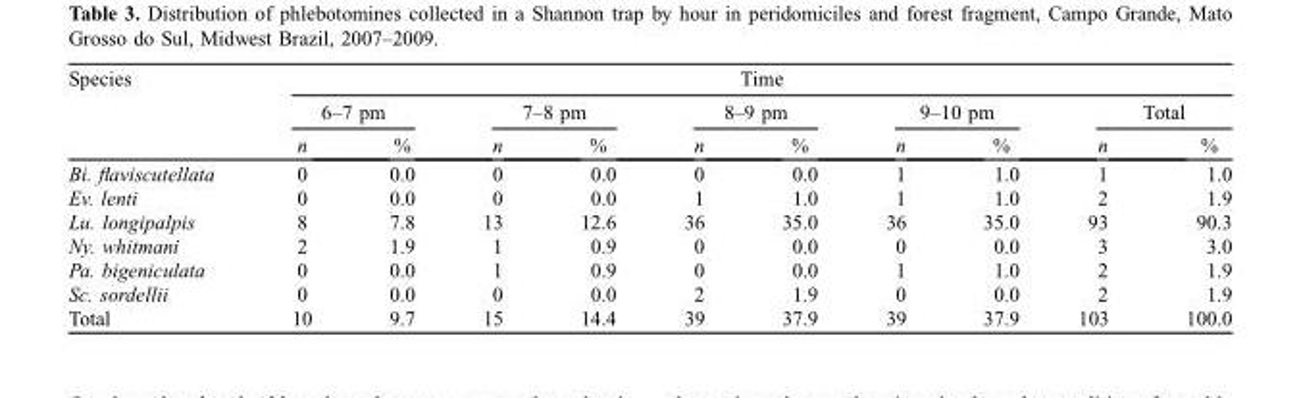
<table><thead><tr><td rowspan="3">Species</td><td colspan="10">Time</td></tr><tr><td colspan="2">6–7 pm</td><td colspan="2">7–8 pm</td><td colspan="2">8–9 pm</td><td colspan="2">9–10 pm</td><td colspan="2">Total</td></tr><tr><td>n</td><td>%</td><td>n</td><td>%</td><td>n</td><td>%</td><td>n</td><td>%</td><td>n</td><td>%</td></tr></thead><tbody><tr><td>Bi. flaviscutellata</td><td>0</td><td>0.0</td><td>0</td><td>0.0</td><td>0</td><td>0.0</td><td>1</td><td>1.0</td><td>1</td><td>1.0</td></tr><tr><td>Ev. lenti</td><td>0</td><td>0.0</td><td>0</td><td>0.0</td><td>1</td><td>1.0</td><td>1</td><td>1.0</td><td>2</td><td>1.9</td></tr><tr><td>Lu. longipalpis</td><td>8</td><td>7.8</td><td>13</td><td>12.6</td><td>36</td><td>35.0</td><td>36</td><td>35.0</td><td>93</td><td>90.3</td></tr><tr><td>Ny. whitmani</td><td>2</td><td>1.9</td><td>1</td><td>0.9</td><td>0</td><td>0.0</td><td>0</td><td>0.0</td><td>3</td><td>3.0</td></tr><tr><td>Pa. bigeniculata</td><td>0</td><td>0.0</td><td>1</td><td>0.9</td><td>0</td><td>0.0</td><td>1</td><td>1.0</td><td>2</td><td>1.9</td></tr><tr><td>Sc. sordellii</td><td>0</td><td>0.0</td><td>0</td><td>0.0</td><td>2</td><td>1.9</td><td>0</td><td>0.0</td><td>2</td><td>1.9</td></tr><tr><td>Total</td><td>10</td><td>9.7</td><td>15</td><td>14.4</td><td>39</td><td>37.9</td><td>39</td><td>37.9</td><td>103</td><td>100.0</td></tr></tbody></table>